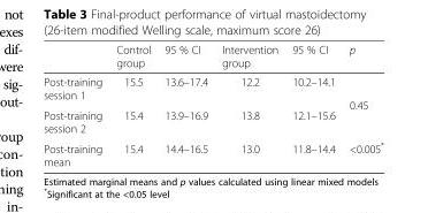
<table><thead><tr><td></td><td>Control group</td><td>95 % CI</td><td>Intervention group</td><td>95 % CI</td><td>p</td></tr></thead><tbody><tr><td>Post-training session 1</td><td>15.5</td><td>13.6–17.4</td><td>12.2</td><td>10.2–14.1</td><td rowspan="2">0.45</td></tr><tr><td>Post-training session 2</td><td>15.4</td><td>13.9–16.9</td><td>13.8</td><td>12.1–15.6</td></tr><tr><td>Post-training mean</td><td>15.4</td><td>14.4–16.5</td><td>13.0</td><td>11.8–14.4</td><td>&lt;0.005*</td></tr></tbody></table>